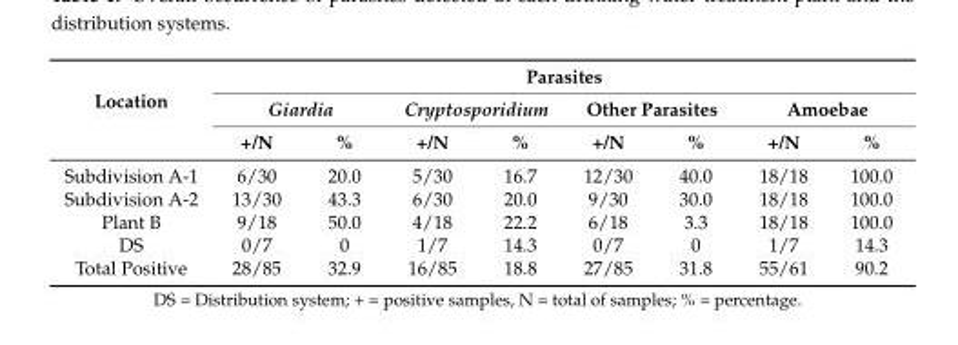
<table><thead><tr><td rowspan="3">Location</td><td colspan="8">Parasites</td></tr><tr><td colspan="2">Giardia</td><td colspan="2">Cryptosporidium</td><td colspan="2">Other Parasites</td><td colspan="2">Amoebae</td></tr><tr><td>+/N</td><td>%</td><td>+/N</td><td>%</td><td>+/N</td><td>%</td><td>+/N</td><td>%</td></tr></thead><tbody><tr><td>Subdivision A-1</td><td>6/30</td><td>20.0</td><td>5/30</td><td>16.7</td><td>12/30</td><td>40.0</td><td>18/18</td><td>100.0</td></tr><tr><td>Subdivision A-2</td><td>13/30</td><td>43.3</td><td>6/30</td><td>20.0</td><td>9/30</td><td>30.0</td><td>18/18</td><td>100.0</td></tr><tr><td>Plant B</td><td>9/18</td><td>50.0</td><td>4/18</td><td>22.2</td><td>6/18</td><td>3.3</td><td>18/18</td><td>100.0</td></tr><tr><td>DS</td><td>0/7</td><td>0</td><td>1/7</td><td>14.3</td><td>0/7</td><td>0</td><td>1/7</td><td>14.3</td></tr><tr><td>Total Positive</td><td>28/85</td><td>32.9</td><td>16/85</td><td>18.8</td><td>27/85</td><td>31.8</td><td>55/61</td><td>90.2</td></tr></tbody></table>